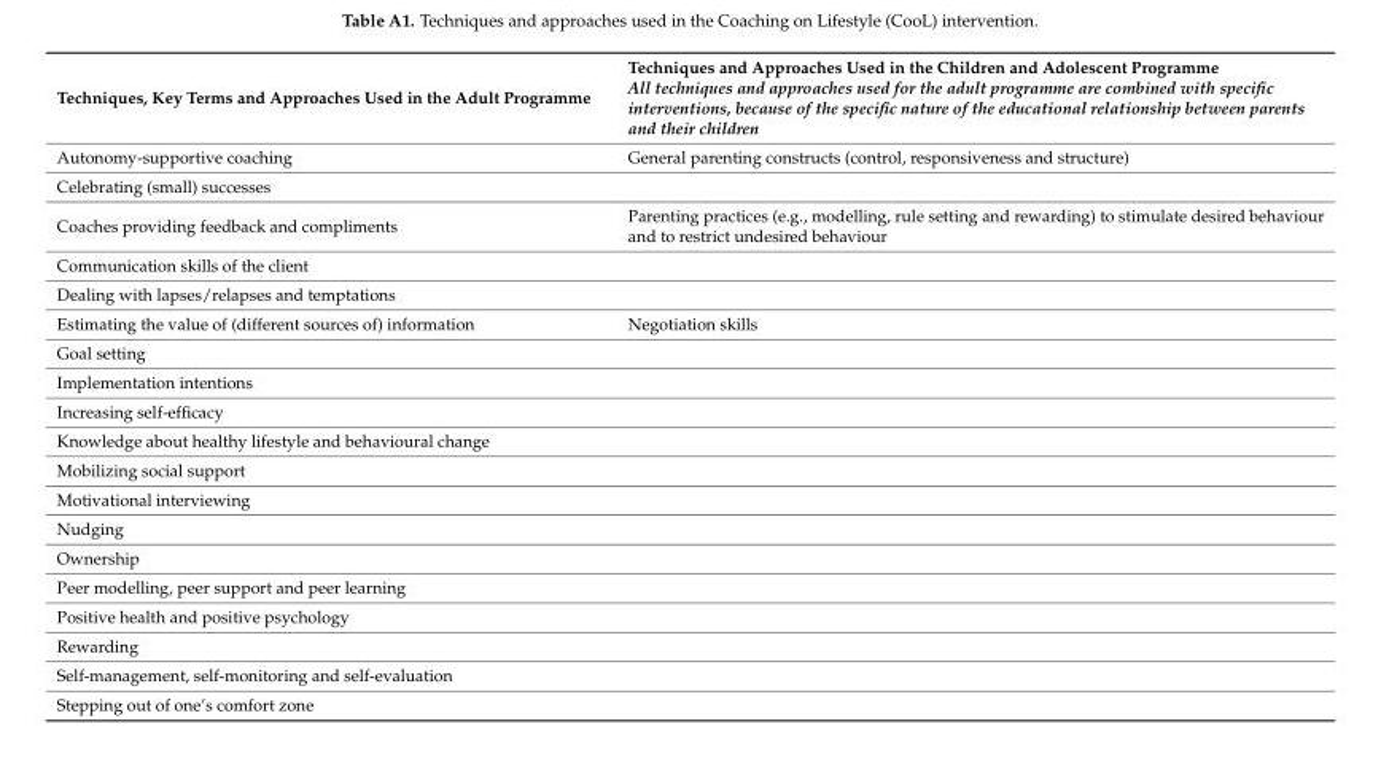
<table><thead><tr><td>Techniques, Key Terms and Approaches Used in the Adult Programme</td><td>Techniques and Approaches Used in the Children and Adolescent Programme All techniques and approaches used for the adult programme are combined with specific interventions, because of the specific nature of the educational relationship between parents and their children</td></tr></thead><tbody><tr><td>Autonomy-supportive coaching</td><td>General parenting constructs (control, responsiveness and structure)</td></tr><tr><td colspan="2">Celebrating (small) successes</td></tr><tr><td>Coaches providing feedback and compliments</td><td>Parenting practices (e.g., modelling, rule setting and rewarding) to stimulate desired behaviour and to restrict undesired behaviour</td></tr><tr><td colspan="2">Communication skills of the client</td></tr><tr><td colspan="2">Dealing with lapses/relapses and temptations</td></tr><tr><td>Estimating the value of (different sources of) information</td><td>Negotiation skills</td></tr><tr><td colspan="2">Goal setting</td></tr><tr><td colspan="2">Implementation intentions</td></tr><tr><td colspan="2">Increasing self-efficacy</td></tr><tr><td colspan="2">Knowledge about healthy lifestyle and behavioural change</td></tr><tr><td colspan="2">Mobilizing social support</td></tr><tr><td colspan="2">Motivational interviewing</td></tr><tr><td colspan="2">Nudging</td></tr><tr><td colspan="2">Ownership</td></tr><tr><td colspan="2">Peer modelling, peer support and peer learning</td></tr><tr><td colspan="2">Positive health and positive psychology</td></tr><tr><td colspan="2">Rewarding</td></tr><tr><td colspan="2">Self-management, self-monitoring and self-evaluation</td></tr><tr><td>Stepping out of one’s comfort zone</td><td></td></tr></tbody></table>